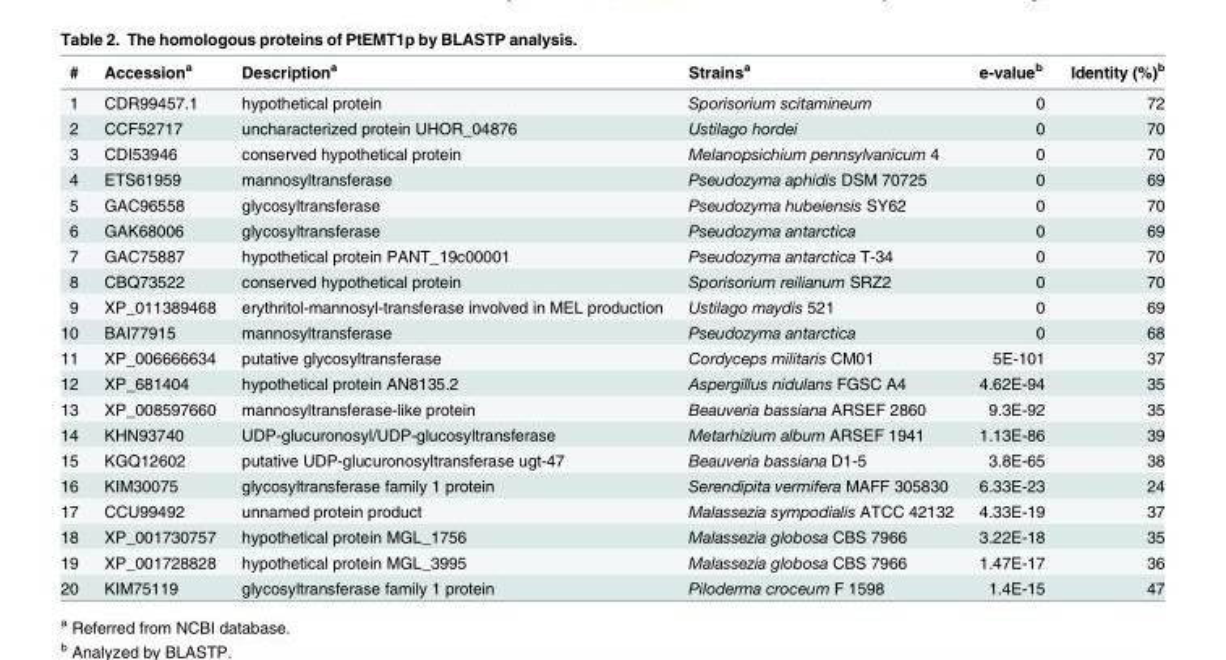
<table><thead><tr><td>#</td><td>Accession<sup>a</sup></td><td>Description<sup>a</sup></td><td>Strains<sup>a</sup></td><td>e-value<sup>b</sup></td><td>Identity (%)<sup>b</sup></td></tr></thead><tbody><tr><td>1</td><td>CDR99457.1</td><td>hypothetical protein</td><td>Sporisorium scitamineum</td><td>0</td><td>72</td></tr><tr><td>2</td><td>CCF52717</td><td>uncharacterized protein UHOR_04876</td><td>Ustilago hordei</td><td>0</td><td>70</td></tr><tr><td>3</td><td>CDI53946</td><td>conserved hypothetical protein</td><td>Melanopsichium pennsylvanicum 4</td><td>0</td><td>70</td></tr><tr><td>4</td><td>ETS61959</td><td>mannosyltransferase</td><td>Pseudozyma aphidis DSM 70725</td><td>0</td><td>69</td></tr><tr><td>5</td><td>GAC96558</td><td>glycosyltransferase</td><td>Pseudozyma hubeiensis SY62</td><td>0</td><td>70</td></tr><tr><td>6</td><td>GAK68006</td><td>glycosyltransferase</td><td>Pseudozyma antarctica</td><td>0</td><td>69</td></tr><tr><td>7</td><td>GAC75887</td><td>hypothetical protein PANT_19c00001</td><td>Pseudozyma antarctica T-34</td><td>0</td><td>70</td></tr><tr><td>8</td><td>CBQ73522</td><td>conserved hypothetical protein</td><td>Sporisorium reilianum SRZ2</td><td>0</td><td>70</td></tr><tr><td>9</td><td>XP_011389468</td><td>erythritol-mannosyl-transferase involved in MEL production</td><td>Ustilago maydis 521</td><td>0</td><td>69</td></tr><tr><td>10</td><td>BAI77915</td><td>mannosyltransferase</td><td>Pseudozyma antarctica</td><td>0</td><td>68</td></tr><tr><td>11</td><td>XP_006666634</td><td>putative glycosyltransferase</td><td>Cordyceps militaris CM01</td><td>5E-101</td><td>37</td></tr><tr><td>12</td><td>XP_681404</td><td>hypothetical protein AN8135.2</td><td>Aspergillus nidulans FGSC A4</td><td>4.62E-94</td><td>35</td></tr><tr><td>13</td><td>XP_008597660</td><td>mannosyltransferase-like protein</td><td>Beauveria bassiana ARSEF 2860</td><td>9.3E-92</td><td>35</td></tr><tr><td>14</td><td>KHN93740</td><td>UDP-glucuronosyl/UDP-glucosyltransferase</td><td>Metarhizium album ARSEF 1941</td><td>1.13E-86</td><td>39</td></tr><tr><td>15</td><td>KGQ12602</td><td>putative UDP-glucuronosyltransferase ugt-47</td><td>Beauveria bassiana D1-5</td><td>3.8E-65</td><td>38</td></tr><tr><td>16</td><td>KIM30075</td><td>glycosyltransferase family 1 protein</td><td>Serendipita vermifera MAFF 305830</td><td>6.33E-23</td><td>24</td></tr><tr><td>17</td><td>CCU99492</td><td>unnamed protein product</td><td>Malassezia sympodialis ATCC 42132</td><td>4.33E-19</td><td>37</td></tr><tr><td>18</td><td>XP_001730757</td><td>hypothetical protein MGL_1756</td><td>Malassezia globosa CBS 7966</td><td>3.22E-18</td><td>35</td></tr><tr><td>19</td><td>XP_001728828</td><td>hypothetical protein MGL_3995</td><td>Malassezia globosa CBS 7966</td><td>1.47E-17</td><td>36</td></tr><tr><td>20</td><td>KIM75119</td><td>glycosyltransferase family 1 protein</td><td>Piloderma croceum F 1598</td><td>1.4E-15</td><td>47</td></tr></tbody></table>